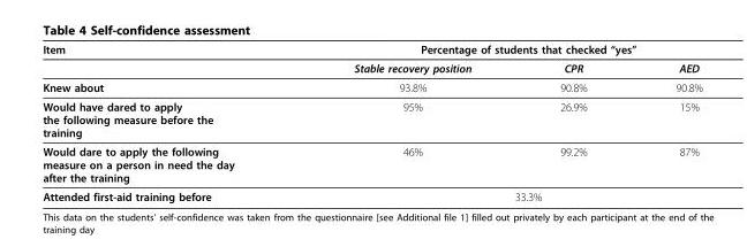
<table><thead><tr><td rowspan="2">Item</td><td colspan="3">Percentage of students that checked “yes”</td></tr><tr><td>Stable recovery position</td><td>CPR</td><td>AED</td></tr></thead><tbody><tr><td>Knew about</td><td>93.8%</td><td>90.8%</td><td>90.8%</td></tr><tr><td>Would have dared to apply the following measure before the training</td><td>95%</td><td>26.9%</td><td>15%</td></tr><tr><td>Would dare to apply the following measure on a person in need the day after the training</td><td>46%</td><td>99.2%</td><td>87%</td></tr><tr><td>Attended first-aid training before</td><td colspan="3">33.3%</td></tr></tbody></table>